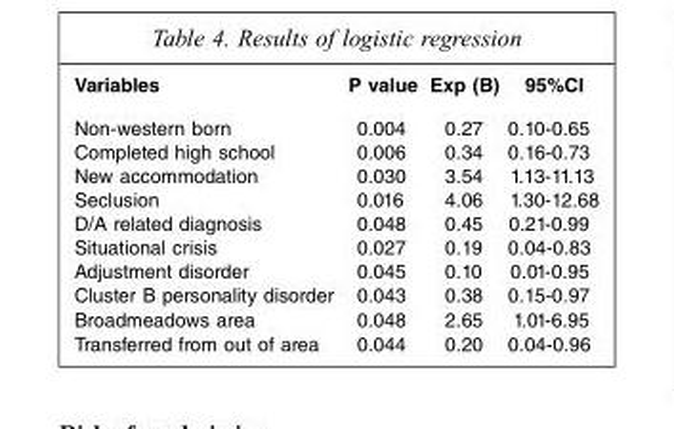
<table><thead><tr><td>Variables</td><td>P value</td><td>Exp (B)</td><td>95%CI</td></tr></thead><tbody><tr><td>Non-western born</td><td>0.004</td><td>0.27</td><td>0.10-0.65</td></tr><tr><td>Completed high school</td><td>0.006</td><td>0.34</td><td>0.16-0.73</td></tr><tr><td>New accommodation</td><td>0.030</td><td>3.54</td><td>1.13-11.13</td></tr><tr><td>Seclusion</td><td>0.016</td><td>4.06</td><td>1.30-12.68</td></tr><tr><td>D/A related diagnosis</td><td>0.048</td><td>0.45</td><td>0.21-0.99</td></tr><tr><td>Situational crisis</td><td>0.027</td><td>0.19</td><td>0.04-0.83</td></tr><tr><td>Adjustment disorder</td><td>0.045</td><td>0.10</td><td>0.01-0.95</td></tr><tr><td>Cluster B personality disorder</td><td>0.043</td><td>0.38</td><td>0.15-0.97</td></tr><tr><td>Broadmeadows area</td><td>0.048</td><td>2.65</td><td>1.01-6.95</td></tr><tr><td>Transferred from out of area</td><td>0.044</td><td>0.20</td><td>0.04-0.96</td></tr></tbody></table>